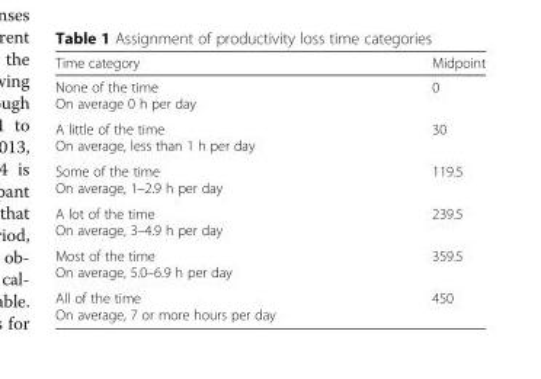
<table><thead><tr><td>Time category</td><td>Midpoint</td></tr></thead><tbody><tr><td>None of the time On average 0 h per day</td><td>0</td></tr><tr><td>A little of the time On average, less than 1 h per day</td><td>30</td></tr><tr><td>Some of the time On average, 1–2.9 h per day</td><td>119.5</td></tr><tr><td>A lot of the time On average, 3–4.9 h per day</td><td>239.5</td></tr><tr><td>Most of the time On average, 5.0–6.9 h per day</td><td>359.5</td></tr><tr><td>All of the time On average, 7 or more hours per day</td><td>450</td></tr></tbody></table>